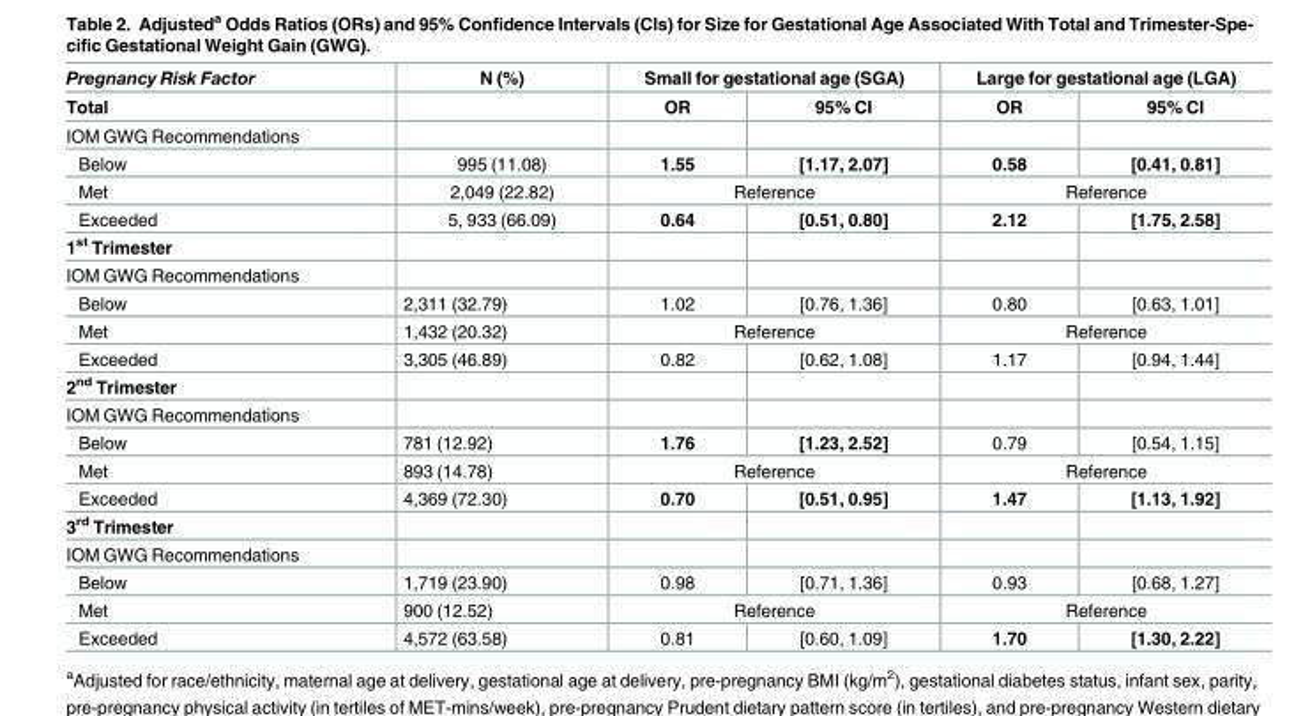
<table><thead><tr><td rowspan="2">Pregnancy Risk Factor Total</td><td rowspan="2">N (%)</td><td colspan="2">Small for gestational age (SGA)</td><td colspan="2">Large for gestational age (LGA)</td></tr><tr><td>OR</td><td>95% CI</td><td>OR</td><td>95% CI</td></tr></thead><tbody><tr><td colspan="6">IOM GWG Recommendations</td></tr><tr><td>Below</td><td>995 (11.08)</td><td>1.55</td><td>[1.17, 2.07]</td><td>0.58</td><td>[0.41, 0.81]</td></tr><tr><td>Met</td><td>2,049 (22.82)</td><td colspan="2">Reference</td><td colspan="2">Reference</td></tr><tr><td>Exceeded</td><td>5, 933 (66.09)</td><td>0.64</td><td>[0.51, 0.80]</td><td>2.12</td><td>[1.75, 2.58]</td></tr><tr><td colspan="6">1<sup>st</sup> Trimester</td></tr><tr><td colspan="6">IOM GWG Recommendations</td></tr><tr><td>Below</td><td>2,311 (32.79)</td><td>1.02</td><td>[0.76, 1.36]</td><td>0.80</td><td>[0.63, 1.01]</td></tr><tr><td>Met</td><td>1,432 (20.32)</td><td colspan="2">Reference</td><td colspan="2">Reference</td></tr><tr><td>Exceeded</td><td>3,305 (46.89)</td><td>0.82</td><td>[0.62, 1.08]</td><td>1.17</td><td>[0.94, 1.44]</td></tr><tr><td colspan="6">2<sup>nd</sup> Trimester</td></tr><tr><td colspan="6">IOM GWG Recommendations</td></tr><tr><td>Below</td><td>781 (12.92)</td><td>1.76</td><td>[1.23, 2.52]</td><td>0.79</td><td>[0.54, 1.15]</td></tr><tr><td>Met</td><td>893 (14.78)</td><td colspan="2">Reference</td><td colspan="2">Reference</td></tr><tr><td>Exceeded</td><td>4,369 (72.30)</td><td>0.70</td><td>[0.51, 0.95]</td><td>1.47</td><td>[1.13, 1.92]</td></tr><tr><td colspan="6">3<sup>rd</sup> Trimester</td></tr><tr><td colspan="6">IOM GWG Recommendations</td></tr><tr><td>Below</td><td>1,719 (23.90)</td><td>0.98</td><td>[0.71, 1.36]</td><td>0.93</td><td>[0.68, 1.27]</td></tr><tr><td>Met</td><td>900 (12.52)</td><td colspan="2">Reference</td><td colspan="2">Reference</td></tr><tr><td>Exceeded</td><td>4,572 (63.58)</td><td>0.81</td><td>[0.60, 1.09]</td><td>1.70</td><td>[1.30, 2.22]</td></tr></tbody></table>